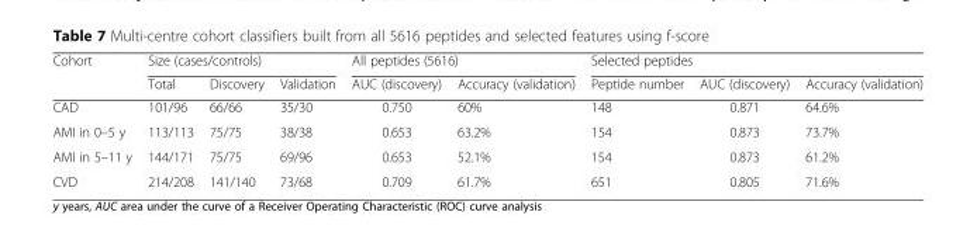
<table><thead><tr><td rowspan="2">Cohort</td><td colspan="3">Size (cases/controls)</td><td colspan="2">All peptides (5616)</td><td colspan="3">Selected peptides</td></tr><tr><td>Total</td><td>Discovery</td><td>Validation</td><td>AUC (discovery)</td><td>Accuracy (validation)</td><td>Peptide number</td><td>AUC (discovery)</td><td>Accuracy (validation)</td></tr></thead><tbody><tr><td>CAD</td><td>101/96</td><td>66/66</td><td>35/30</td><td>0.750</td><td>60%</td><td>148</td><td>0.871</td><td>64.6%</td></tr><tr><td>AMI in 0–5 y</td><td>113/113</td><td>75/75</td><td>38/38</td><td>0.653</td><td>63.2%</td><td>154</td><td>0.873</td><td>73.7%</td></tr><tr><td>AMI in 5–11 y</td><td>144/171</td><td>75/75</td><td>69/96</td><td>0.653</td><td>52.1%</td><td>154</td><td>0.873</td><td>61.2%</td></tr><tr><td>CVD</td><td>214/208</td><td>141/140</td><td>73/68</td><td>0.709</td><td>61.7%</td><td>651</td><td>0.805</td><td>71.6%</td></tr></tbody></table>